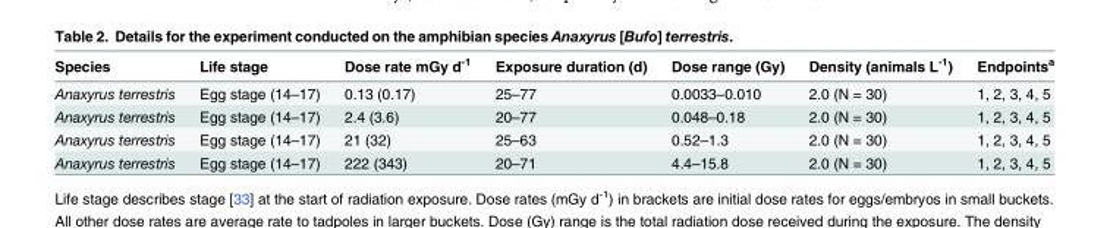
<table><thead><tr><td>Species</td><td>Life stage</td><td>Dose rate mGy d<sup>-1</sup></td><td>Exposure duration (d)</td><td>Dose range (Gy)</td><td>Density (animals L<sup>-1</sup>)</td><td>Endpoints<sup>a</sup></td></tr></thead><tbody><tr><td>Anaxyrus terrestris</td><td>Egg stage (14–17)</td><td>0.13 (0.17)</td><td>25–77</td><td>0.0033–0.010</td><td>2.0 (N = 30)</td><td>1, 2, 3, 4, 5</td></tr><tr><td>Anaxyrus terrestris</td><td>Egg stage (14–17)</td><td>2.4 (3.6)</td><td>20–77</td><td>0.048–0.18</td><td>2.0 (N = 30)</td><td>1, 2, 3, 4, 5</td></tr><tr><td>Anaxyrus terrestris</td><td>Egg stage (14–17)</td><td>21 (32)</td><td>25–63</td><td>0.52–1.3</td><td>2.0 (N = 30)</td><td>1, 2, 3, 4, 5</td></tr><tr><td>Anaxyrus terrestris</td><td>Egg stage (14–17)</td><td>222 (343)</td><td>20–71</td><td>4.4–15.8</td><td>2.0 (N = 30)</td><td>1, 2, 3, 4, 5</td></tr></tbody></table>